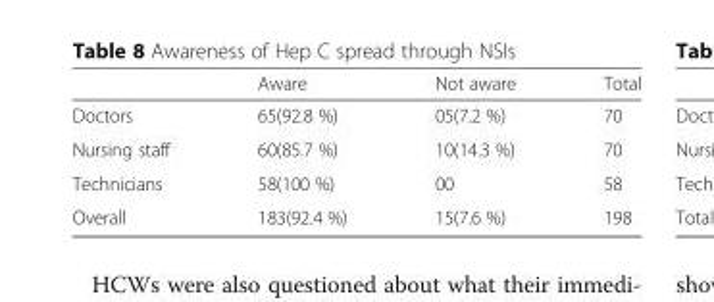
<table><thead><tr><td></td><td>Aware</td><td>Not aware</td><td>Total</td></tr></thead><tbody><tr><td>Doctors</td><td>65(92.8 %)</td><td>05(7.2 %)</td><td>70</td></tr><tr><td>Nursing staff</td><td>60(85.7 %)</td><td>10(14.3 %)</td><td>70</td></tr><tr><td>Technicians</td><td>58(100 %)</td><td>00</td><td>58</td></tr><tr><td>Overall</td><td>183(92.4 %)</td><td>15(7.6 %)</td><td>198</td></tr></tbody></table>